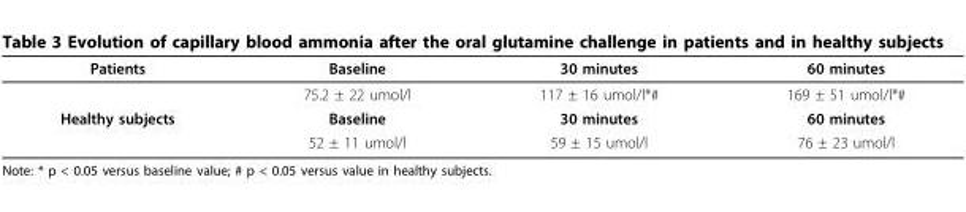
<table><thead><tr><td>Patients</td><td>Baseline</td><td>30 minutes</td><td>60 minutes</td></tr></thead><tbody><tr><td></td><td>75.2 ± 22 umol/l</td><td>117 ± 16 umol/l*#</td><td>169 ± 51 umol/l*#</td></tr><tr><td rowspan="2">Healthy subjects</td><td>Baseline</td><td>30 minutes</td><td>60 minutes</td></tr><tr><td>52 ± 11 umol/l</td><td>59 ± 15 umol/l</td><td>76 ± 23 umol/l</td></tr></tbody></table>